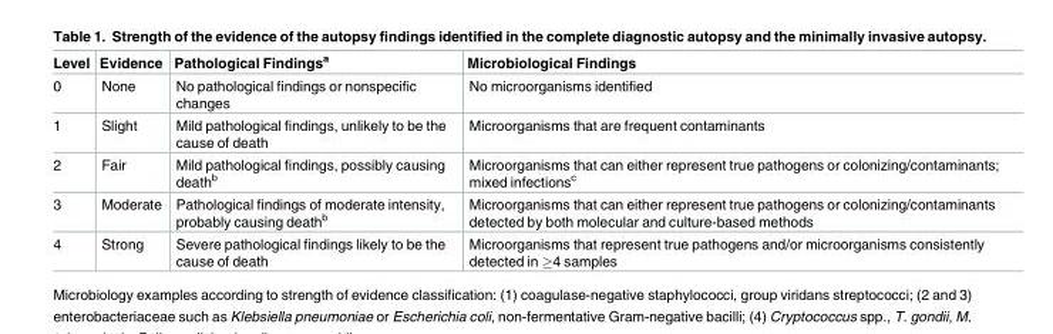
<table><thead><tr><td>Level</td><td>Evidence</td><td>Pathological Findings<sup>a</sup></td><td>Microbiological Findings</td></tr></thead><tbody><tr><td>0</td><td>None</td><td>No pathological findings or nonspecific changes</td><td>No microorganisms identified</td></tr><tr><td>1</td><td>Slight</td><td>Mild pathological findings, unlikely to be the cause of death</td><td>Microorganisms that are frequent contaminants</td></tr><tr><td>2</td><td>Fair</td><td>Mild pathological findings, possibly causing death<sup>b</sup></td><td>Microorganisms that can either represent true pathogens or colonizing/contaminants; mixed infections<sup>c</sup></td></tr><tr><td>3</td><td>Moderate</td><td>Pathological findings of moderate intensity, probably causing death<sup>b</sup></td><td>Microorganisms that can either represent true pathogens or colonizing/contaminants detected by both molecular and culture-based methods</td></tr><tr><td>4</td><td>Strong</td><td>Severe pathological findings likely to be the cause of death</td><td>Microorganisms that represent true pathogens and/or microorganisms consistently detected in ≥4 samples</td></tr></tbody></table>